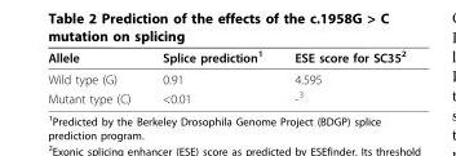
<table><thead><tr><td>Allele</td><td>Splice prediction<sup>1</sup></td><td>ESE score for SC35<sup>2</sup></td></tr></thead><tbody><tr><td>Wild type (G)</td><td>0.91</td><td>4.595</td></tr><tr><td>Mutant type (C)</td><td>&lt;0.01</td><td>-<sup>3</sup></td></tr></tbody></table>